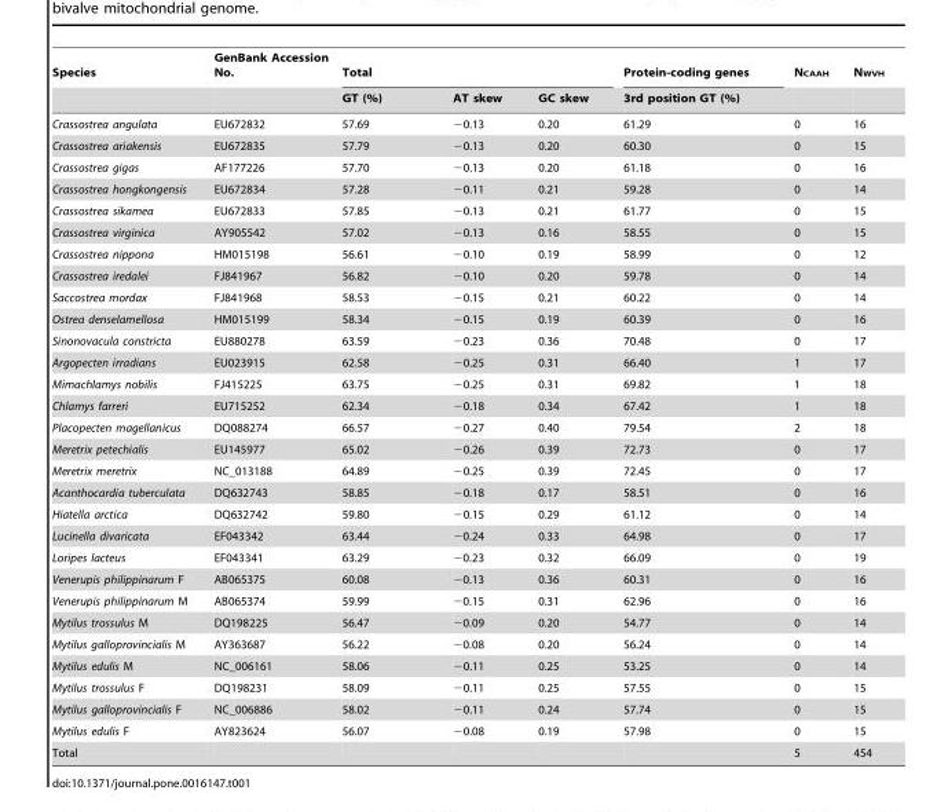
<table><thead><tr><td rowspan="2">Species</td><td rowspan="2">GenBank Accession No.</td><td colspan="3">Total</td><td rowspan="2">Protein-coding genes 3rd position GT (%)</td><td rowspan="2">N<sub>CAAH</sub></td><td rowspan="2">N<sub>WVH</sub></td></tr><tr><td>GT (%)</td><td>AT skew</td><td>GC skew</td></tr></thead><tbody><tr><td>Crassostrea angulata</td><td>EU672832</td><td>57.69</td><td>−0.13</td><td>0.20</td><td>61.29</td><td>0</td><td>16</td></tr><tr><td>Crassostrea ariakensis</td><td>EU672835</td><td>57.79</td><td>−0.13</td><td>0.20</td><td>60.30</td><td>0</td><td>15</td></tr><tr><td>Crassostrea gigas</td><td>AF177226</td><td>57.70</td><td>−0.13</td><td>0.20</td><td>61.18</td><td>0</td><td>16</td></tr><tr><td>Crassostrea hongkongensis</td><td>EU672834</td><td>57.28</td><td>−0.11</td><td>0.21</td><td>59.28</td><td>0</td><td>14</td></tr><tr><td>Crassostrea sikamea</td><td>EU672833</td><td>57.85</td><td>−0.13</td><td>0.21</td><td>61.77</td><td>0</td><td>15</td></tr><tr><td>Crassostrea virginica</td><td>AY905542</td><td>57.02</td><td>−0.13</td><td>0.16</td><td>58.55</td><td>0</td><td>15</td></tr><tr><td>Crassostrea nippona</td><td>HM015198</td><td>56.61</td><td>−0.10</td><td>0.19</td><td>58.99</td><td>0</td><td>12</td></tr><tr><td>Crassostrea iredalei</td><td>FJ841967</td><td>56.82</td><td>−0.10</td><td>0.20</td><td>59.78</td><td>0</td><td>14</td></tr><tr><td>Saccostrea mordax</td><td>FJ841968</td><td>58.53</td><td>−0.15</td><td>0.21</td><td>60.22</td><td>0</td><td>14</td></tr><tr><td>Ostrea denselamellosa</td><td>HM015199</td><td>58.34</td><td>−0.15</td><td>0.19</td><td>60.39</td><td>0</td><td>16</td></tr><tr><td>Sinonovacula constricta</td><td>EU880278</td><td>63.59</td><td>−0.23</td><td>0.36</td><td>70.48</td><td>0</td><td>17</td></tr><tr><td>Argopecten irradians</td><td>EU023915</td><td>62.58</td><td>−0.25</td><td>0.31</td><td>66.40</td><td>1</td><td>17</td></tr><tr><td>Mimachlamys nobilis</td><td>FJ415225</td><td>63.75</td><td>−0.25</td><td>0.31</td><td>69.82</td><td>1</td><td>18</td></tr><tr><td>Chlamys farreri</td><td>EU715252</td><td>62.34</td><td>−0.18</td><td>0.34</td><td>67.42</td><td>1</td><td>18</td></tr><tr><td>Placopecten magellanicus</td><td>DQ088274</td><td>66.57</td><td>−0.27</td><td>0.40</td><td>79.54</td><td>2</td><td>18</td></tr><tr><td>Meretrix petechialis</td><td>EU145977</td><td>65.02</td><td>−0.26</td><td>0.39</td><td>72.73</td><td>0</td><td>17</td></tr><tr><td>Meretrix meretrix</td><td>NC_013188</td><td>64.89</td><td>−0.25</td><td>0.39</td><td>72.45</td><td>0</td><td>17</td></tr><tr><td>Acanthocardia tuberculata</td><td>DQ632743</td><td>58.85</td><td>−0.18</td><td>0.17</td><td>58.51</td><td>0</td><td>16</td></tr><tr><td>Hiatella arctica</td><td>DQ632742</td><td>59.80</td><td>−0.15</td><td>0.29</td><td>61.12</td><td>0</td><td>14</td></tr><tr><td>Lucinella divaricata</td><td>EF043342</td><td>63.44</td><td>−0.24</td><td>0.33</td><td>64.98</td><td>0</td><td>17</td></tr><tr><td>Loripes lacteus</td><td>EF043341</td><td>63.29</td><td>−0.23</td><td>0.32</td><td>66.09</td><td>0</td><td>19</td></tr><tr><td>Venerupis philippinarum F</td><td>AB065375</td><td>60.08</td><td>−0.13</td><td>0.36</td><td>60.31</td><td>0</td><td>16</td></tr><tr><td>Venerupis philippinarum M</td><td>AB065374</td><td>59.99</td><td>−0.15</td><td>0.31</td><td>62.96</td><td>0</td><td>16</td></tr><tr><td>Mytilus trossulus M</td><td>DQ198225</td><td>56.47</td><td>−0.09</td><td>0.20</td><td>54.77</td><td>0</td><td>14</td></tr><tr><td>Mytilus galloprovincialis M</td><td>AY363687</td><td>56.22</td><td>−0.08</td><td>0.20</td><td>56.24</td><td>0</td><td>14</td></tr><tr><td>Mytilus edulis M</td><td>NC_006161</td><td>58.06</td><td>−0.11</td><td>0.25</td><td>53.25</td><td>0</td><td>14</td></tr><tr><td>Mytilus trossulus F</td><td>DQ198231</td><td>58.09</td><td>−0.11</td><td>0.25</td><td>57.55</td><td>0</td><td>15</td></tr><tr><td>Mytilus galloprovincialis F</td><td>NC_006886</td><td>58.02</td><td>−0.11</td><td>0.24</td><td>57.74</td><td>0</td><td>15</td></tr><tr><td>Mytilus edulis F</td><td>AY823624</td><td>56.07</td><td>−0.08</td><td>0.19</td><td>57.98</td><td>0</td><td>15</td></tr><tr><td>Total</td><td></td><td></td><td></td><td></td><td></td><td>5</td><td>454</td></tr></tbody></table>